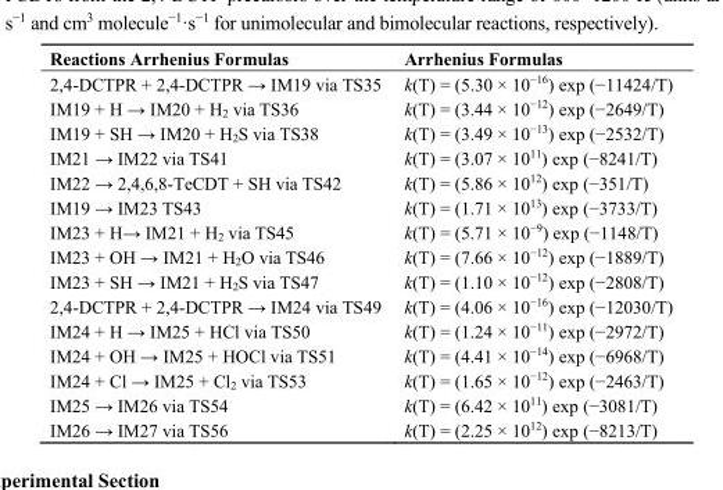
<table><thead><tr><td>Reactions Arrhenius Formulas</td><td>Arrhenius Formulas</td></tr></thead><tbody><tr><td>2,4-DCTPR + 2,4-DCTPR → IM19 via TS35</td><td>k(T) = (5.30 × 10<sup>−16</sup>) exp (−11424/T)</td></tr><tr><td>IM19 + H → IM20 + H<sub>2</sub> via TS36</td><td>k(T) = (3.44 × 10<sup>−12</sup>) exp (−2649/T)</td></tr><tr><td>IM19 + SH → IM20 + H<sub>2</sub>S via TS38</td><td>k(T) = (3.49 × 10<sup>−13</sup>) exp (−2532/T)</td></tr><tr><td>IM21 → IM22 via TS41</td><td>k(T) = (3.07 × 10<sup>11</sup>) exp (−8241/T)</td></tr><tr><td>IM22 → 2,4,6,8-TeCDT + SH via TS42</td><td>k(T) = (5.86 × 10<sup>12</sup>) exp (−351/T)</td></tr><tr><td>IM19 → IM23 TS43</td><td>k(T) = (1.71 × 10<sup>13</sup>) exp (−3733/T)</td></tr><tr><td>IM23 + H→ IM21 + H<sub>2</sub> via TS45</td><td>k(T) = (5.71 × 10<sup>−9</sup>) exp (−1148/T)</td></tr><tr><td>IM23 + OH → IM21 + H<sub>2</sub>O via TS46</td><td>k(T) = (7.66 × 10<sup>−12</sup>) exp (−1889/T)</td></tr><tr><td>IM23 + SH → IM21 + H<sub>2</sub>S via TS47</td><td>k(T) = (1.10 × 10<sup>−12</sup>) exp (−2808/T)</td></tr><tr><td>2,4-DCTPR + 2,4-DCTPR → IM24 via TS49</td><td>k(T) = (4.06 × 10<sup>−16</sup>) exp (−12030/T)</td></tr><tr><td>IM24 + H → IM25 + HCl via TS50</td><td>k(T) = (1.24 × 10<sup>−11</sup>) exp (−2972/T)</td></tr><tr><td>IM24 + OH → IM25 + HOCl via TS51</td><td>k(T) = (4.41 × 10<sup>−14</sup>) exp (−6968/T)</td></tr><tr><td>IM24 + Cl → IM25 + Cl<sub>2</sub> via TS53</td><td>k(T) = (1.65 × 10<sup>−12</sup>) exp (−2463/T)</td></tr><tr><td>IM25 → IM26 via TS54</td><td>k(T) = (6.42 × 10<sup>11</sup>) exp (−3081/T)</td></tr><tr><td>IM26 → IM27 via TS56</td><td>k(T) = (2.25 × 10<sup>12</sup>) exp (−8213/T)</td></tr></tbody></table>